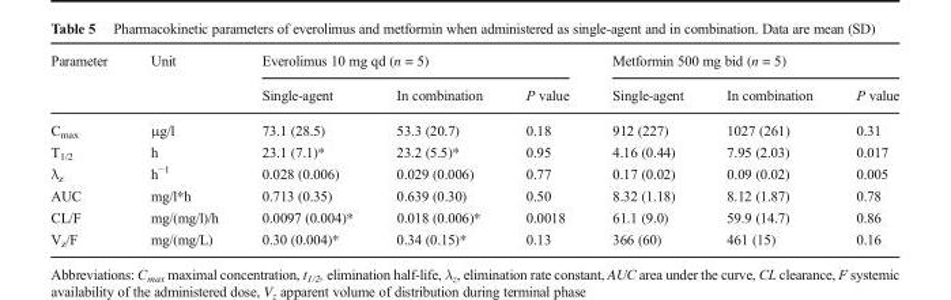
<table><thead><tr><td rowspan="2">Parameter</td><td rowspan="2">Unit</td><td colspan="3">Everolimus 10 mg qd (n = 5)</td><td colspan="3">Metformin 500 mg bid (n = 5)</td></tr><tr><td>Single-agent</td><td>In combination</td><td>P value</td><td>Single-agent</td><td>In combination</td><td>P value</td></tr></thead><tbody><tr><td>C<sub>max</sub></td><td>μg/l</td><td>73.1 (28.5)</td><td>53.3 (20.7)</td><td>0.18</td><td>912 (227)</td><td>1027 (261)</td><td>0.31</td></tr><tr><td>T<sub>1/2</sub></td><td>h</td><td>23.1 (7.1)*</td><td>23.2 (5.5)*</td><td>0.95</td><td>4.16 (0.44)</td><td>7.95 (2.03)</td><td>0.017</td></tr><tr><td>λ<sub>z</sub></td><td>h<sup>−1</sup></td><td>0.028 (0.006)</td><td>0.029 (0.006)</td><td>0.77</td><td>0.17 (0.02)</td><td>0.09 (0.02)</td><td>0.005</td></tr><tr><td>AUC</td><td>mg/l*h</td><td>0.713 (0.35)</td><td>0.639 (0.30)</td><td>0.50</td><td>8.32 (1.18)</td><td>8.12 (1.87)</td><td>0.78</td></tr><tr><td>CL/F</td><td>mg/(mg/l)/h</td><td>0.0097 (0.004)*</td><td>0.018 (0.006)*</td><td>0.0018</td><td>61.1 (9.0)</td><td>59.9 (14.7)</td><td>0.86</td></tr><tr><td>V<sub>z</sub>/F</td><td>mg/(mg/L)</td><td>0.30 (0.004)*</td><td>0.34 (0.15)*</td><td>0.13</td><td>366 (60)</td><td>461 (15)</td><td>0.16</td></tr></tbody></table>